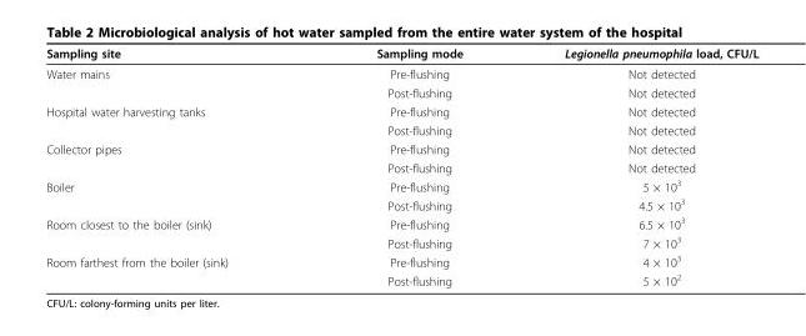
<table><thead><tr><td>Sampling site</td><td>Sampling mode</td><td>Legionella pneumophila load, CFU/L</td></tr></thead><tbody><tr><td rowspan="2">Water mains</td><td>Pre-flushing</td><td>Not detected</td></tr><tr><td>Post-flushing</td><td>Not detected</td></tr><tr><td rowspan="2">Hospital water harvesting tanks</td><td>Pre-flushing</td><td>Not detected</td></tr><tr><td>Post-flushing</td><td>Not detected</td></tr><tr><td rowspan="2">Collector pipes</td><td>Pre-flushing</td><td>Not detected</td></tr><tr><td>Post-flushing</td><td>Not detected</td></tr><tr><td rowspan="2">Boiler</td><td>Pre-flushing</td><td>5 × 10<sup>3</sup></td></tr><tr><td>Post-flushing</td><td>4.5 × 10<sup>3</sup></td></tr><tr><td rowspan="2">Room closest to the boiler (sink)</td><td>Pre-flushing</td><td>6.5 × 10<sup>3</sup></td></tr><tr><td>Post-flushing</td><td>7 × 10<sup>3</sup></td></tr><tr><td rowspan="2">Room farthest from the boiler (sink)</td><td>Pre-flushing</td><td>4 × 10<sup>3</sup></td></tr><tr><td>Post-flushing</td><td>5 × 10<sup>2</sup></td></tr></tbody></table>